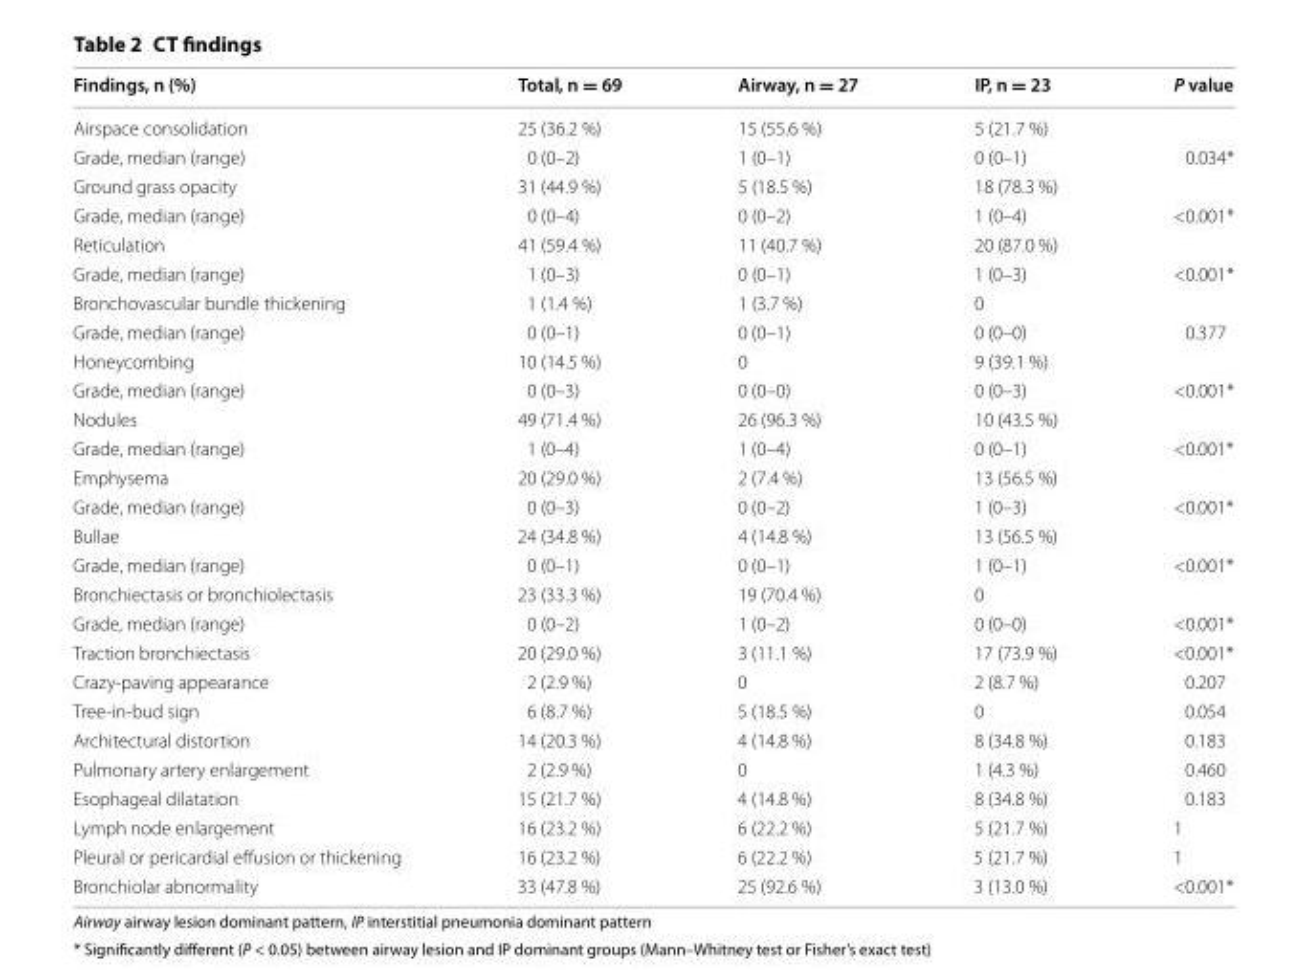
<table><thead><tr><td>Findings, n (%)</td><td>Total, n = 69</td><td>Airway, n = 27</td><td>IP, n = 23</td><td>P value</td></tr></thead><tbody><tr><td>Airspace consolidation</td><td>25 (36.2 %)</td><td>15 (55.6 %)</td><td>5 (21.7 %)</td><td></td></tr><tr><td>Grade, median (range)</td><td>0 (0–2)</td><td>1 (0–1)</td><td>0 (0–1)</td><td>0.034*</td></tr><tr><td>Ground grass opacity</td><td>31 (44.9 %)</td><td>5 (18.5 %)</td><td>18 (78.3 %)</td><td></td></tr><tr><td>Grade, median (range)</td><td>0 (0–4)</td><td>0 (0–2)</td><td>1 (0–4)</td><td>&lt;0.001*</td></tr><tr><td>Reticulation</td><td>41 (59.4 %)</td><td>11 (40.7 %)</td><td>20 (87.0 %)</td><td></td></tr><tr><td>Grade, median (range)</td><td>1 (0–3)</td><td>0 (0–1)</td><td>1 (0–3)</td><td>&lt;0.001*</td></tr><tr><td>Bronchovascular bundle thickening</td><td>1 (1.4 %)</td><td>1 (3.7 %)</td><td>0</td><td></td></tr><tr><td>Grade, median (range)</td><td>0 (0–1)</td><td>0 (0–1)</td><td>0 (0–0)</td><td>0.377</td></tr><tr><td>Honeycombing</td><td>10 (14.5 %)</td><td>0</td><td>9 (39.1 %)</td><td></td></tr><tr><td>Grade, median (range)</td><td>0 (0–3)</td><td>0 (0–0)</td><td>0 (0–3)</td><td>&lt;0.001*</td></tr><tr><td>Nodules</td><td>49 (71.4 %)</td><td>26 (96.3 %)</td><td>10 (43.5 %)</td><td></td></tr><tr><td>Grade, median (range)</td><td>1 (0–4)</td><td>1 (0–4)</td><td>0 (0–1)</td><td>&lt;0.001*</td></tr><tr><td>Emphysema</td><td>20 (29.0 %)</td><td>2 (7.4 %)</td><td>13 (56.5 %)</td><td></td></tr><tr><td>Grade, median (range)</td><td>0 (0–3)</td><td>0 (0–2)</td><td>1 (0–3)</td><td>&lt;0.001*</td></tr><tr><td>Bullae</td><td>24 (34.8 %)</td><td>4 (14.8 %)</td><td>13 (56.5 %)</td><td></td></tr><tr><td>Grade, median (range)</td><td>0 (0–1)</td><td>0 (0–1)</td><td>1 (0–1)</td><td>&lt;0.001*</td></tr><tr><td>Bronchiectasis or bronchiolectasis</td><td>23 (33.3 %)</td><td>19 (70.4 %)</td><td>0</td><td></td></tr><tr><td>Grade, median (range)</td><td>0 (0–2)</td><td>1 (0–2)</td><td>0 (0–0)</td><td>&lt;0.001*</td></tr><tr><td>Traction bronchiectasis</td><td>20 (29.0 %)</td><td>3 (11.1 %)</td><td>17 (73.9 %)</td><td>&lt;0.001*</td></tr><tr><td>Crazy-paving appearance</td><td>2 (2.9 %)</td><td>0</td><td>2 (8.7 %)</td><td>0.207</td></tr><tr><td>Tree-in-bud sign</td><td>6 (8.7 %)</td><td>5 (18.5 %)</td><td>0</td><td>0.054</td></tr><tr><td>Architectural distortion</td><td>14 (20.3 %)</td><td>4 (14.8 %)</td><td>8 (34.8 %)</td><td>0.183</td></tr><tr><td>Pulmonary artery enlargement</td><td>2 (2.9 %)</td><td>0</td><td>1 (4.3 %)</td><td>0.460</td></tr><tr><td>Esophageal dilatation</td><td>15 (21.7 %)</td><td>4 (14.8 %)</td><td>8 (34.8 %)</td><td>0.183</td></tr><tr><td>Lymph node enlargement</td><td>16 (23.2 %)</td><td>6 (22.2 %)</td><td>5 (21.7 %)</td><td>1</td></tr><tr><td>Pleural or pericardial effusion or thickening</td><td>16 (23.2 %)</td><td>6 (22.2 %)</td><td>5 (21.7 %)</td><td>1</td></tr><tr><td>Bronchiolar abnormality</td><td>33 (47.8 %)</td><td>25 (92.6 %)</td><td>3 (13.0 %)</td><td>&lt;0.001*</td></tr></tbody></table>